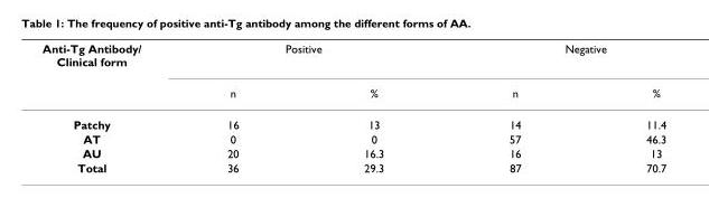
<table><thead><tr><td rowspan="2">Anti-Tg Antibody/ Clinical form</td><td colspan="2">Positive</td><td colspan="2">Negative</td></tr><tr><td>n</td><td>%</td><td>n</td><td>%</td></tr></thead><tbody><tr><td>Patchy</td><td>16</td><td>13</td><td>14</td><td>11.4</td></tr><tr><td>AT</td><td>0</td><td>0</td><td>57</td><td>46.3</td></tr><tr><td>AU</td><td>20</td><td>16.3</td><td>16</td><td>13</td></tr><tr><td>Total</td><td>36</td><td>29.3</td><td>87</td><td>70.7</td></tr></tbody></table>